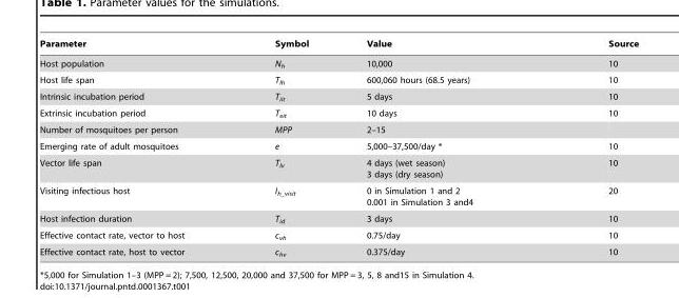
<table><thead><tr><td>Parameter</td><td>Symbol</td><td>Value</td><td>Source</td></tr></thead><tbody><tr><td>Host population</td><td>N<sub>h</sub></td><td>10,000</td><td>10</td></tr><tr><td>Host life span</td><td>T<sub>lh</sub></td><td>600,060 hours (68.5 years)</td><td>10</td></tr><tr><td>Intrinsic incubation period</td><td>T<sub>iit</sub></td><td>5 days</td><td>10</td></tr><tr><td>Extrinsic incubation period</td><td>T<sub>eit</sub></td><td>10 days</td><td>10</td></tr><tr><td>Number of mosquitoes per person</td><td>MPP</td><td>2–15</td><td></td></tr><tr><td>Emerging rate of adult mosquitoes</td><td>e</td><td>5,000–37,500/day *</td><td>10</td></tr><tr><td>Vector life span</td><td>T<sub>lv</sub></td><td>4 days (wet season) 3 days (dry season)</td><td>10</td></tr><tr><td>Visiting infectious host</td><td>I<sub>h_visit</sub></td><td>0 in Simulation 1 and 2 0.001 in Simulation 3 and4</td><td>20</td></tr><tr><td>Host infection duration</td><td>T<sub>id</sub></td><td>3 days</td><td>10</td></tr><tr><td>Effective contact rate, vector to host</td><td>c<sub>vh</sub></td><td>0.75/day</td><td>10</td></tr><tr><td>Effective contact rate, host to vector</td><td>c<sub>hv</sub></td><td>0.375/day</td><td>10</td></tr></tbody></table>